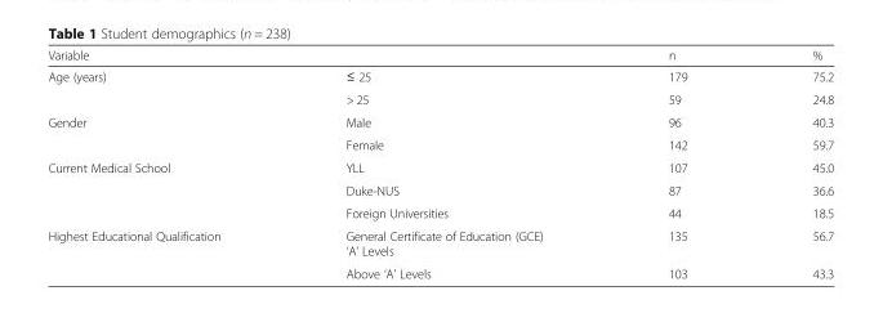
<table><thead><tr><td>Variable</td><td></td><td>n</td><td>%</td></tr></thead><tbody><tr><td rowspan="2">Age (years)</td><td>≤ 25</td><td>179</td><td>75.2</td></tr><tr><td>&gt; 25</td><td>59</td><td>24.8</td></tr><tr><td rowspan="2">Gender</td><td>Male</td><td>96</td><td>40.3</td></tr><tr><td>Female</td><td>142</td><td>59.7</td></tr><tr><td rowspan="3">Current Medical School</td><td>YLL</td><td>107</td><td>45.0</td></tr><tr><td>Duke-NUS</td><td>87</td><td>36.6</td></tr><tr><td>Foreign Universities</td><td>44</td><td>18.5</td></tr><tr><td rowspan="2">Highest Educational Qualification</td><td>General Certificate of Education (GCE) ‘A’ Levels</td><td>135</td><td>56.7</td></tr><tr><td>Above ‘A’ Levels</td><td>103</td><td>43.3</td></tr></tbody></table>